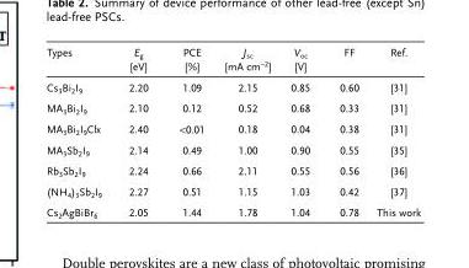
<table><thead><tr><td>Types</td><td>E<sub>g</sub> [eV]</td><td>PCE [%]</td><td>J<sub>sc</sub> [mA cm<sup>−2</sup>]</td><td>V<sub>oc</sub> [V]</td><td>FF</td><td>Ref.</td></tr></thead><tbody><tr><td>Cs<sub>3</sub>Bi<sub>2</sub>I<sub>9</sub></td><td>2.20</td><td>1.09</td><td>2.15</td><td>0.85</td><td>0.60</td><td>[31]</td></tr><tr><td>MA<sub>3</sub>Bi<sub>2</sub>I<sub>9</sub></td><td>2.10</td><td>0.12</td><td>0.52</td><td>0.68</td><td>0.33</td><td>[31]</td></tr><tr><td>MA<sub>3</sub>Bi<sub>2</sub>I<sub>9</sub>Cl<sub>x</sub></td><td>2.40</td><td>&lt;0.01</td><td>0.18</td><td>0.04</td><td>0.38</td><td>[31]</td></tr><tr><td>MA<sub>3</sub>Sb<sub>2</sub>I<sub>9</sub></td><td>2.14</td><td>0.49</td><td>1.00</td><td>0.90</td><td>0.55</td><td>[35]</td></tr><tr><td>Rb<sub>3</sub>Sb<sub>2</sub>I<sub>9</sub></td><td>2.24</td><td>0.66</td><td>2.11</td><td>0.55</td><td>0.56</td><td>[36]</td></tr><tr><td>(NH<sub>4</sub>)<sub>3</sub>Sb<sub>2</sub>I<sub>9</sub></td><td>2.27</td><td>0.51</td><td>1.15</td><td>1.03</td><td>0.42</td><td>[37]</td></tr><tr><td>Cs<sub>2</sub>AgBiBr<sub>6</sub></td><td>2.05</td><td>1.44</td><td>1.78</td><td>1.04</td><td>0.78</td><td>This work</td></tr></tbody></table>